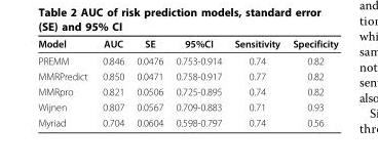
<table><thead><tr><td>Model</td><td>AUC</td><td>SE</td><td>95%CI</td><td>Sensitivity</td><td>Specificity</td></tr></thead><tbody><tr><td>PREMM</td><td>0.846</td><td>0.0476</td><td>0.753-0.914</td><td>0.74</td><td>0.82</td></tr><tr><td>MMRPredict</td><td>0.850</td><td>0.0471</td><td>0.758-0.917</td><td>0.77</td><td>0.82</td></tr><tr><td>MMRpro</td><td>0.821</td><td>0.0506</td><td>0.725-0.895</td><td>0.74</td><td>0.82</td></tr><tr><td>Wijnen</td><td>0.807</td><td>0.0567</td><td>0.709-0.883</td><td>0.71</td><td>0.93</td></tr><tr><td>Myriad</td><td>0.704</td><td>0.0604</td><td>0.598-0.797</td><td>0.74</td><td>0.56</td></tr></tbody></table>